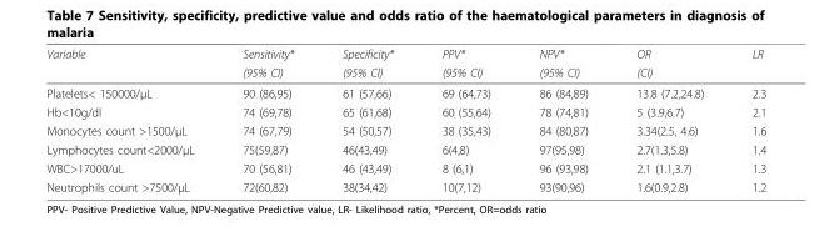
<table><thead><tr><td rowspan="2">Variable</td><td rowspan="2">Sensitivity* (95% CI)</td><td rowspan="2">Specificity* (95% CI)</td><td rowspan="2">PPV* (95% CI)</td><td rowspan="2">NPV* (95% CI)</td><td rowspan="2">OR (CI)</td><td rowspan="2">LR</td></tr><tr></tr></thead><tbody><tr><td>Platelets&lt; 150000/µL</td><td>90 (86,95)</td><td>61 (57,66)</td><td>69 (64,73)</td><td>86 (84,89)</td><td>13.8 (7.2,24.8)</td><td>2.3</td></tr><tr><td>Hb&lt;10g/dl</td><td>74 (69,78)</td><td>65 (61,68)</td><td>60 (55,64)</td><td>78 (74,81)</td><td>5 (3.9,6.7)</td><td>2.1</td></tr><tr><td>Monocytes count &gt;1500/µL</td><td>74 (67,79)</td><td>54 (50,57)</td><td>38 (35,43)</td><td>84 (80,87)</td><td>3.34(2.5, 4.6)</td><td>1.6</td></tr><tr><td>Lymphocytes count&lt;2000/µL</td><td>75(59,87)</td><td>46(43,49)</td><td>6(4,8)</td><td>97(95,98)</td><td>2.7(1.3,5.8)</td><td>1.4</td></tr><tr><td>WBC&gt;17000/uL</td><td>70 (56,81)</td><td>46 (43,49)</td><td>8 (6,1)</td><td>96 (93,98)</td><td>2.1 (1.1,3.7)</td><td>1.3</td></tr><tr><td>Neutrophils count &gt;7500/µL</td><td>72(60,82)</td><td>38(34,42)</td><td>10(7,12)</td><td>93(90,96)</td><td>1.6(0.9,2.8)</td><td>1.2</td></tr></tbody></table>